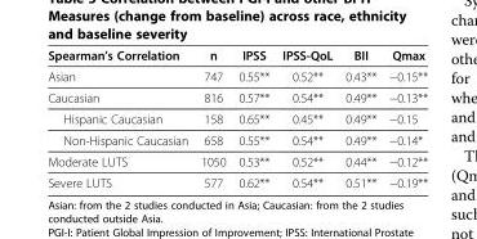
<table><thead><tr><td>Spearman’s Correlation</td><td>n</td><td>IPSS</td><td>IPSS-QoL</td><td>BII</td><td>Qmax</td></tr></thead><tbody><tr><td>Asian</td><td>747</td><td>0.55**</td><td>0.52**</td><td>0.43**</td><td>−0.15**</td></tr><tr><td>Caucasian</td><td>816</td><td>0.57**</td><td>0.54**</td><td>0.49**</td><td>−0.13**</td></tr><tr><td>Hispanic Caucasian</td><td>158</td><td>0.65**</td><td>0.45**</td><td>0.49**</td><td>−0.15</td></tr><tr><td>Non-Hispanic Caucasian</td><td>658</td><td>0.55**</td><td>0.54**</td><td>0.49**</td><td>−0.14*</td></tr><tr><td>Moderate LUTS</td><td>1050</td><td>0.53**</td><td>0.52**</td><td>0.44**</td><td>−0.12**</td></tr><tr><td>Severe LUTS</td><td>577</td><td>0.62**</td><td>0.54**</td><td>0.51**</td><td>−0.19**</td></tr></tbody></table>